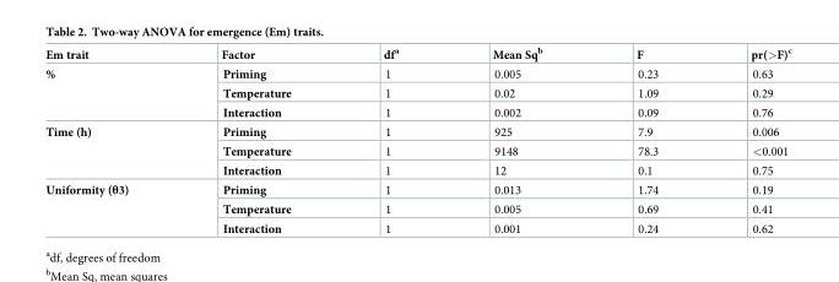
<table><thead><tr><td>Em trait</td><td>Factor</td><td>df<sup>a</sup></td><td>Mean Sq<sup>b</sup></td><td>F</td><td>pr(&gt;F)<sup>c</sup></td></tr></thead><tbody><tr><td rowspan="3">%</td><td>Priming</td><td>1</td><td>0.005</td><td>0.23</td><td>0.63</td></tr><tr><td>Temperature</td><td>1</td><td>0.02</td><td>1.09</td><td>0.29</td></tr><tr><td>Interaction</td><td>1</td><td>0.002</td><td>0.09</td><td>0.76</td></tr><tr><td rowspan="3">Time (h)</td><td>Priming</td><td>1</td><td>925</td><td>7.9</td><td>0.006</td></tr><tr><td>Temperature</td><td>1</td><td>9148</td><td>78.3</td><td>&lt;0.001</td></tr><tr><td>Interaction</td><td>1</td><td>12</td><td>0.1</td><td>0.75</td></tr><tr><td rowspan="3">Uniformity (θ3)</td><td>Priming</td><td>1</td><td>0.013</td><td>1.74</td><td>0.19</td></tr><tr><td>Temperature</td><td>1</td><td>0.005</td><td>0.69</td><td>0.41</td></tr><tr><td>Interaction</td><td>1</td><td>0.001</td><td>0.24</td><td>0.62</td></tr></tbody></table>